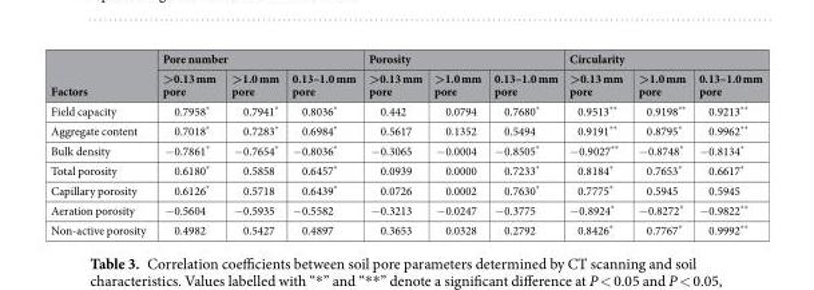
<table><thead><tr><td rowspan="2">Factors</td><td colspan="3">Pore number</td><td colspan="3">Porosity</td><td colspan="3">Circularity</td></tr><tr><td>&gt;0.13 mm pore</td><td>&gt;1.0 mm pore</td><td>0.13–1.0 mm pore</td><td>&gt;0.13 mm pore</td><td>&gt;1.0 mm pore</td><td>0.13–1.0 mm pore</td><td>&gt;0.13 mm pore</td><td>&gt;1.0 mm pore</td><td>0.13–1.0 mm pore</td></tr></thead><tbody><tr><td>Field capacity</td><td>0.7958*</td><td>0.7941*</td><td>0.8036*</td><td>0.442</td><td>0.0794</td><td>0.7680*</td><td>0.9513**</td><td>0.9198**</td><td>0.9213**</td></tr><tr><td>Aggregate content</td><td>0.7018*</td><td>0.7283*</td><td>0.6984*</td><td>0.5617</td><td>0.1352</td><td>0.5494</td><td>0.9191**</td><td>0.8795*</td><td>0.9962**</td></tr><tr><td>Bulk density</td><td>−0.7861*</td><td>−0.7654*</td><td>−0.8036*</td><td>−0.3065</td><td>−0.0004</td><td>−0.8505*</td><td>−0.9027**</td><td>−0.8748*</td><td>−0.8134*</td></tr><tr><td>Total porosity</td><td>0.6180*</td><td>0.5858</td><td>0.6457*</td><td>0.0939</td><td>0.0000</td><td>0.7233*</td><td>0.8184*</td><td>0.7653*</td><td>0.6617*</td></tr><tr><td>Capillary porosity</td><td>0.6126*</td><td>0.5718</td><td>0.6439*</td><td>0.0726</td><td>0.0002</td><td>0.7630*</td><td>0.7775*</td><td>0.5945</td><td>0.5945</td></tr><tr><td>Aeration porosity</td><td>−0.5604</td><td>−0.5935</td><td>−0.5582</td><td>−0.3213</td><td>−0.0247</td><td>−0.3775</td><td>−0.8924*</td><td>−0.8272*</td><td>−0.9822**</td></tr><tr><td>Non-active porosity</td><td>0.4982</td><td>0.5427</td><td>0.4897</td><td>0.3653</td><td>0.0328</td><td>0.2792</td><td>0.8426*</td><td>0.7767*</td><td>0.9992**</td></tr></tbody></table>